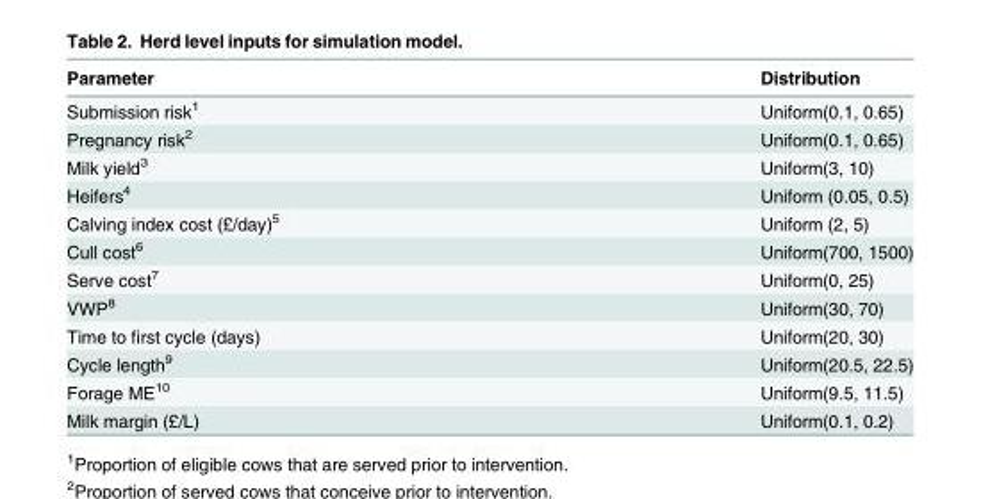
<table><thead><tr><td>Parameter</td><td>Distribution</td></tr></thead><tbody><tr><td>Submission risk<sup>1</sup></td><td>Uniform(0.1, 0.65)</td></tr><tr><td>Pregnancy risk<sup>2</sup></td><td>Uniform(0.1, 0.65)</td></tr><tr><td>Milk yield<sup>3</sup></td><td>Uniform(3, 10)</td></tr><tr><td>Heifers<sup>4</sup></td><td>Uniform (0.05, 0.5)</td></tr><tr><td>Calving index cost (£/day)<sup>5</sup></td><td>Uniform (2, 5)</td></tr><tr><td>Cull cost<sup>6</sup></td><td>Uniform(700, 1500)</td></tr><tr><td>Serve cost<sup>7</sup></td><td>Uniform(0, 25)</td></tr><tr><td>VWP<sup>8</sup></td><td>Uniform(30, 70)</td></tr><tr><td>Time to first cycle (days)</td><td>Uniform(20, 30)</td></tr><tr><td>Cycle length<sup>9</sup></td><td>Uniform(20.5, 22.5)</td></tr><tr><td>Forage ME<sup>10</sup></td><td>Uniform(9.5, 11.5)</td></tr><tr><td>Milk margin (£/L)</td><td>Uniform(0.1, 0.2)</td></tr></tbody></table>